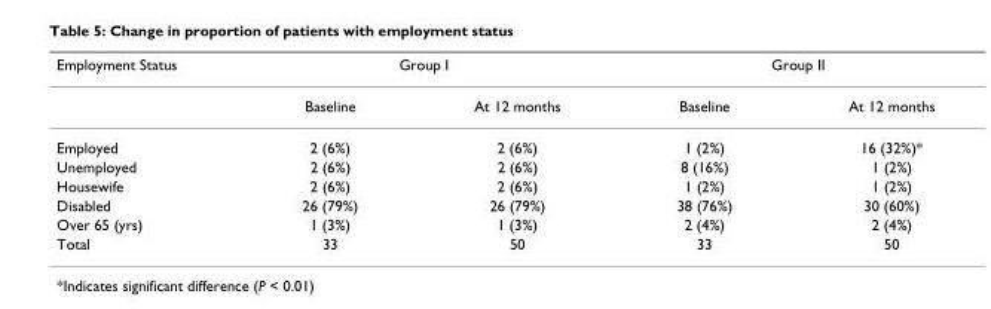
<table><thead><tr><td rowspan="2">Employment Status</td><td colspan="2">Group I</td><td colspan="2">Group II</td></tr><tr><td>Baseline</td><td>At 12 months</td><td>Baseline</td><td>At 12 months</td></tr></thead><tbody><tr><td>Employed</td><td>2 (6%)</td><td>2 (6%)</td><td>1 (2%)</td><td>16 (32%)*</td></tr><tr><td>Unemployed</td><td>2 (6%)</td><td>2 (6%)</td><td>8 (16%)</td><td>1 (2%)</td></tr><tr><td>Housewife</td><td>2 (6%)</td><td>2 (6%)</td><td>1 (2%)</td><td>1 (2%)</td></tr><tr><td>Disabled</td><td>26 (79%)</td><td>26 (79%)</td><td>38 (76%)</td><td>30 (60%)</td></tr><tr><td>Over 65 (yrs)</td><td>1 (3%)</td><td>1 (3%)</td><td>2 (4%)</td><td>2 (4%)</td></tr><tr><td>Total</td><td>33</td><td>50</td><td>33</td><td>50</td></tr></tbody></table>